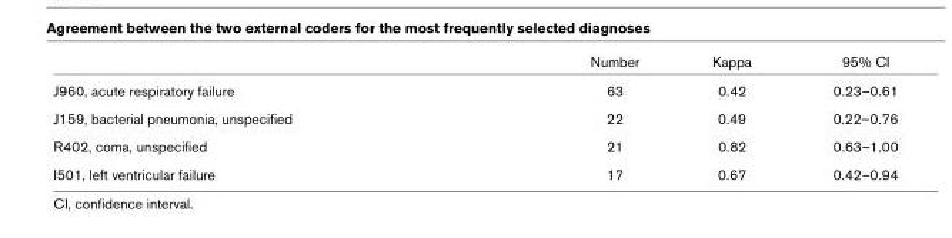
<table><thead><tr><td></td><td>Number</td><td>Kappa</td><td>95% CI</td></tr></thead><tbody><tr><td>J960, acute respiratory failure</td><td>63</td><td>0.42</td><td>0.23–0.61</td></tr><tr><td>J159, bacterial pneumonia, unspecified</td><td>22</td><td>0.49</td><td>0.22–0.76</td></tr><tr><td>R402, coma, unspecified</td><td>21</td><td>0.82</td><td>0.63–1.00</td></tr><tr><td>I501, left ventricular failure</td><td>17</td><td>0.67</td><td>0.42–0.94</td></tr></tbody></table>